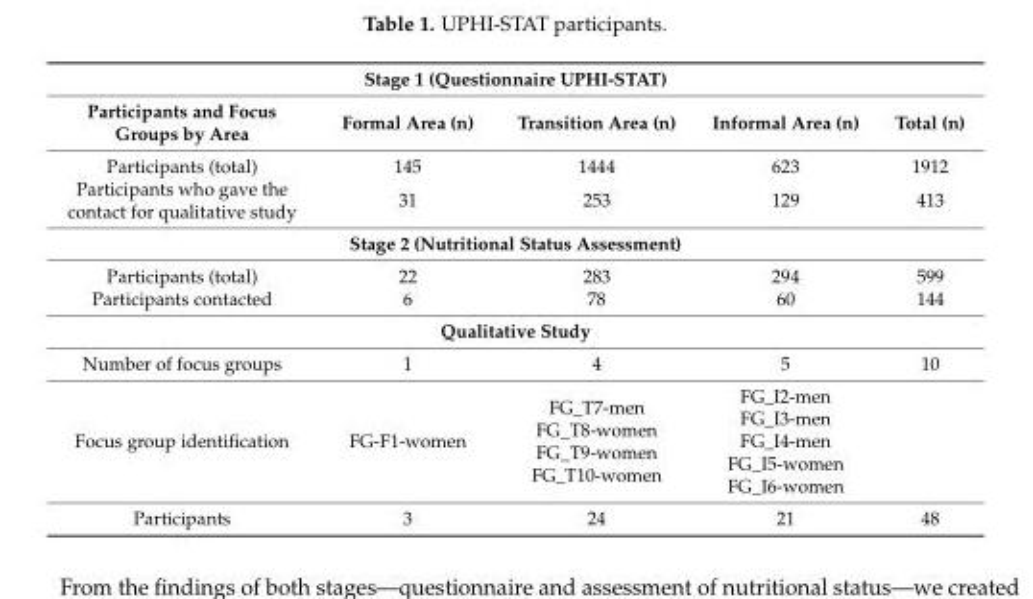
<table><tbody><tr><td colspan="5">Stage 1 (Questionnaire UPHI-STAT)</td></tr><tr><td>Participants and Focus Groups by Area</td><td>Formal Area (n)</td><td>Transition Area (n)</td><td>Informal Area (n)</td><td>Total (n)</td></tr><tr><td>Participants (total)</td><td>145</td><td>1444</td><td>623</td><td>1912</td></tr><tr><td>Participants who gave the contact for qualitative study</td><td>31</td><td>253</td><td>129</td><td>413</td></tr><tr><td colspan="5">Stage 2 (Nutritional Status Assessment)</td></tr><tr><td>Participants (total)</td><td>22</td><td>283</td><td>294</td><td>599</td></tr><tr><td>Participants contacted</td><td>6</td><td>78</td><td>60</td><td>144</td></tr><tr><td colspan="5">Qualitative Study</td></tr><tr><td>Number of focus groups</td><td>1</td><td>4</td><td>5</td><td>10</td></tr><tr><td>Focus group identification</td><td>FG-F1-women</td><td>FG_T7-men FG_T8-women FG_T9-women FG_T10-women</td><td>FG_I2-men FG_I3-men FG_I4-men FG_I5-women FG_I6-women</td><td></td></tr><tr><td>Participants</td><td>3</td><td>24</td><td>21</td><td>48</td></tr></tbody></table>